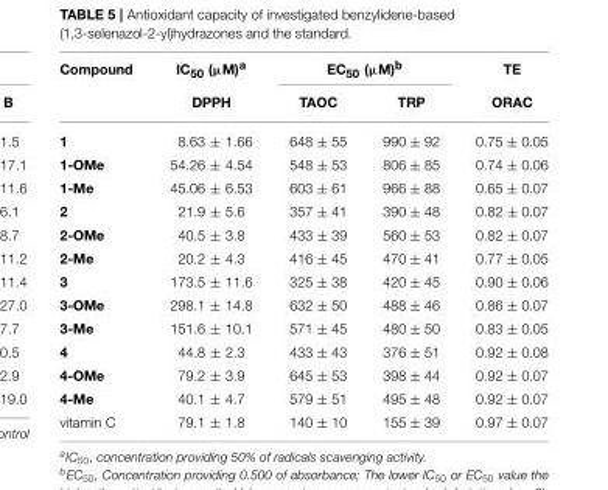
<table><thead><tr><td rowspan="2">Compound</td><td rowspan="2">IC<sub>50</sub> (µM)<sup>a</sup> DPPH</td><td colspan="2">EC<sub>50</sub> (µM)<sup>b</sup></td><td rowspan="2">TE ORAC</td></tr><tr><td>TAOC</td><td>TRP</td></tr></thead><tbody><tr><td>1</td><td>8.63 ± 1.66</td><td>648 ± 55</td><td>990 ± 92</td><td>0.75 ± 0.05</td></tr><tr><td>1-OMe</td><td>54.26 ± 4.54</td><td>548 ± 53</td><td>806 ± 85</td><td>0.74 ± 0.06</td></tr><tr><td>1-Me</td><td>45.06 ± 6.53</td><td>603 ± 61</td><td>966 ± 88</td><td>0.65 ± 0.07</td></tr><tr><td>2</td><td>21.9 ± 5.6</td><td>357 ± 41</td><td>390 ± 48</td><td>0.82 ± 0.07</td></tr><tr><td>2-OMe</td><td>40.5 ± 3.8</td><td>433 ± 39</td><td>560 ± 53</td><td>0.82 ± 0.07</td></tr><tr><td>2-Me</td><td>20.2 ± 4.3</td><td>416 ± 45</td><td>470 ± 41</td><td>0.77 ± 0.05</td></tr><tr><td>3</td><td>173.5 ± 11.6</td><td>325 ± 38</td><td>420 ± 45</td><td>0.90 ± 0.06</td></tr><tr><td>3-OMe</td><td>298.1 ± 14.8</td><td>632 ± 50</td><td>488 ± 46</td><td>0.86 ± 0.07</td></tr><tr><td>3-Me</td><td>151.6 ± 10.1</td><td>571 ± 45</td><td>480 ± 50</td><td>0.83 ± 0.05</td></tr><tr><td>4</td><td>44.8 ± 2.3</td><td>433 ± 43</td><td>376 ± 51</td><td>0.92 ± 0.08</td></tr><tr><td>4-OMe</td><td>79.2 ± 3.9</td><td>645 ± 53</td><td>398 ± 44</td><td>0.92 ± 0.07</td></tr><tr><td>4-Me</td><td>40.1 ± 4.7</td><td>579 ± 51</td><td>495 ± 48</td><td>0.92 ± 0.07</td></tr><tr><td>vitamin C</td><td>79.1 ± 1.8</td><td>140 ± 10</td><td>155 ± 39</td><td>0.97 ± 0.07</td></tr></tbody></table>